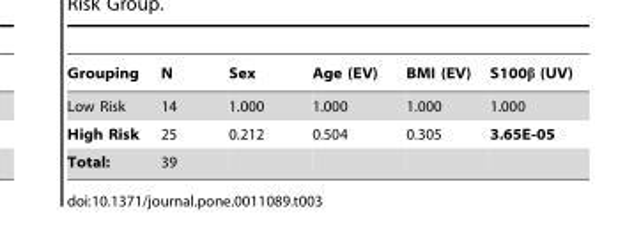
<table><thead><tr><td>Grouping</td><td>N</td><td>Sex</td><td>Age (EV)</td><td>BMI (EV)</td><td>S100β (UV)</td></tr></thead><tbody><tr><td>Low Risk</td><td>14</td><td>1.000</td><td>1.000</td><td>1.000</td><td>1.000</td></tr><tr><td>High Risk</td><td>25</td><td>0.212</td><td>0.504</td><td>0.305</td><td>3.65E-05</td></tr><tr><td>Total:</td><td>39</td><td></td><td></td><td></td><td></td></tr></tbody></table>